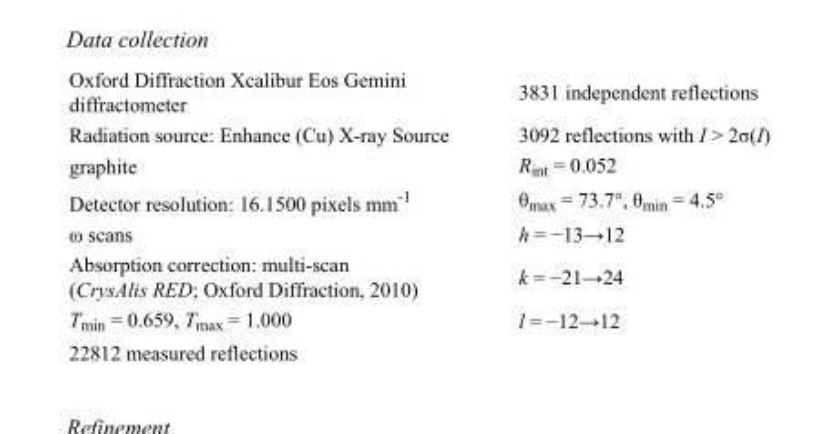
<table><tbody><tr><td>Oxford Diffraction Xcalibur Eos Gemini diffractometer</td><td>3831 independent reflections</td></tr><tr><td>Radiation source: Enhance (Cu) X-ray Source</td><td>3092 reflections with I &gt; 2σ(I)</td></tr><tr><td>graphite</td><td>R<sub>int</sub> = 0.052</td></tr><tr><td>Detector resolution: 16.1500 pixels mm<sup>-1</sup></td><td>θ<sub>max</sub> = 73.7°, θ<sub>min</sub> = 4.5°</td></tr><tr><td>ω scans</td><td>h = −13→12</td></tr><tr><td>Absorption correction: multi-scan (CrysAlis RED; Oxford Diffraction, 2010)</td><td>k = −21→24</td></tr><tr><td>T<sub>min</sub> = 0.659, T<sub>max</sub> = 1.000</td><td>l = −12→12</td></tr><tr><td>22812 measured reflections</td><td></td></tr></tbody></table>